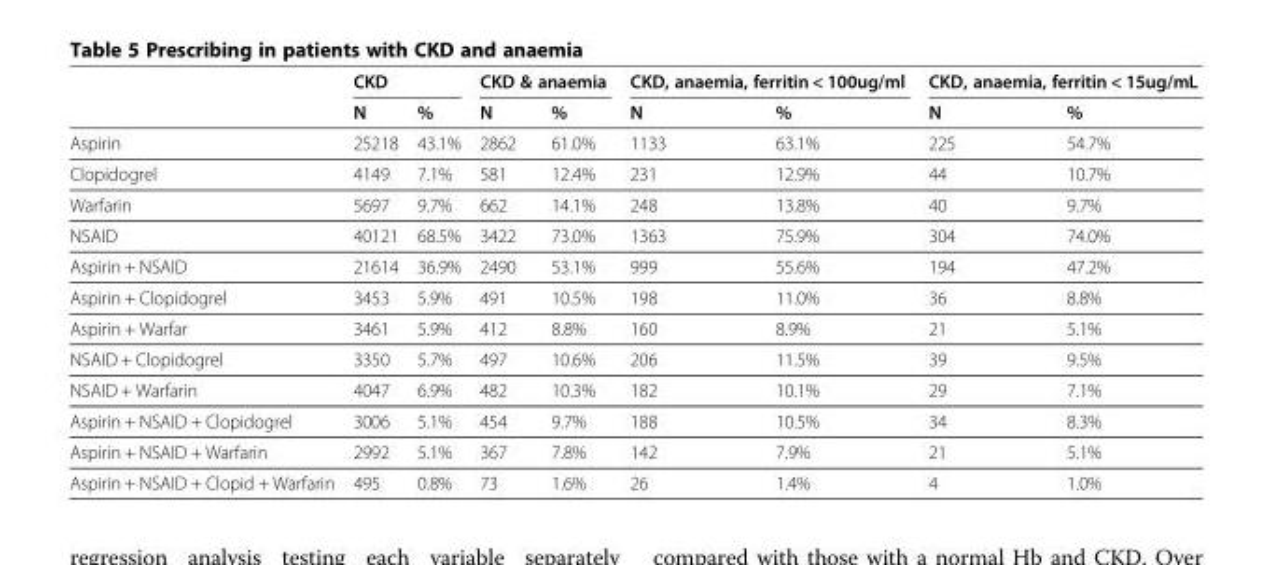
<table><thead><tr><td rowspan="2"></td><td colspan="2">CKD</td><td colspan="2">CKD &amp; anaemia</td><td colspan="2">CKD, anaemia, ferritin &lt; 100ug/ml</td><td colspan="2">CKD, anaemia, ferritin &lt; 15ug/mL</td></tr><tr><td>N</td><td>%</td><td>N</td><td>%</td><td>N</td><td>%</td><td>N</td><td>%</td></tr></thead><tbody><tr><td>Aspirin</td><td>25218</td><td>43.1%</td><td>2862</td><td>61.0%</td><td>1133</td><td>63.1%</td><td>225</td><td>54.7%</td></tr><tr><td>Clopidogrel</td><td>4149</td><td>7.1%</td><td>581</td><td>12.4%</td><td>231</td><td>12.9%</td><td>44</td><td>10.7%</td></tr><tr><td>Warfarin</td><td>5697</td><td>9.7%</td><td>662</td><td>14.1%</td><td>248</td><td>13.8%</td><td>40</td><td>9.7%</td></tr><tr><td>NSAID</td><td>40121</td><td>68.5%</td><td>3422</td><td>73.0%</td><td>1363</td><td>75.9%</td><td>304</td><td>74.0%</td></tr><tr><td>Aspirin + NSAID</td><td>21614</td><td>36.9%</td><td>2490</td><td>53.1%</td><td>999</td><td>55.6%</td><td>194</td><td>47.2%</td></tr><tr><td>Aspirin + Clopidogrel</td><td>3453</td><td>5.9%</td><td>491</td><td>10.5%</td><td>198</td><td>11.0%</td><td>36</td><td>8.8%</td></tr><tr><td>Aspirin + Warfar</td><td>3461</td><td>5.9%</td><td>412</td><td>8.8%</td><td>160</td><td>8.9%</td><td>21</td><td>5.1%</td></tr><tr><td>NSAID + Clopidogrel</td><td>3350</td><td>5.7%</td><td>497</td><td>10.6%</td><td>206</td><td>11.5%</td><td>39</td><td>9.5%</td></tr><tr><td>NSAID + Warfarin</td><td>4047</td><td>6.9%</td><td>482</td><td>10.3%</td><td>182</td><td>10.1%</td><td>29</td><td>7.1%</td></tr><tr><td>Aspirin + NSAID + Clopidogrel</td><td>3006</td><td>5.1%</td><td>454</td><td>9.7%</td><td>188</td><td>10.5%</td><td>34</td><td>8.3%</td></tr><tr><td>Aspirin + NSAID + Warfarin</td><td>2992</td><td>5.1%</td><td>367</td><td>7.8%</td><td>142</td><td>7.9%</td><td>21</td><td>5.1%</td></tr><tr><td>Aspirin + NSAID + Clopid + Warfarin</td><td>495</td><td>0.8%</td><td>73</td><td>1.6%</td><td>26</td><td>1.4%</td><td>4</td><td>1.0%</td></tr></tbody></table>